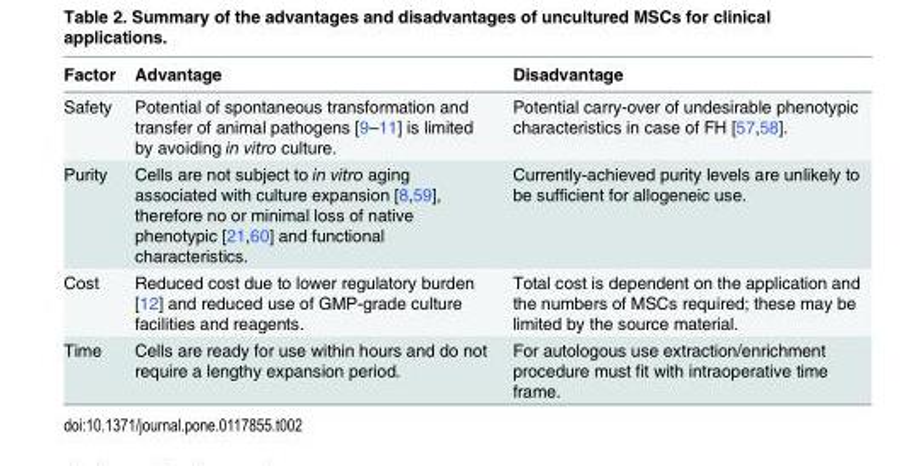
<table><thead><tr><td>Factor</td><td>Advantage</td><td>Disadvantage</td></tr></thead><tbody><tr><td>Safety</td><td>Potential of spontaneous transformation and transfer of animal pathogens [9–11] is limited by avoiding in vitro culture.</td><td>Potential carry-over of undesirable phenotypic characteristics in case of FH [57,58].</td></tr><tr><td>Purity</td><td>Cells are not subject to in vitro aging associated with culture expansion [8,59], therefore no or minimal loss of native phenotypic [21,60] and functional characteristics.</td><td>Currently-achieved purity levels are unlikely to be sufficient for allogeneic use.</td></tr><tr><td>Cost</td><td>Reduced cost due to lower regulatory burden [12] and reduced use of GMP-grade culture facilities and reagents.</td><td>Total cost is dependent on the application and the numbers of MSCs required; these may be limited by the source material.</td></tr><tr><td>Time</td><td>Cells are ready for use within hours and do not require a lengthy expansion period.</td><td>For autologous use extraction/enrichment procedure must fit with intraoperative time frame.</td></tr></tbody></table>